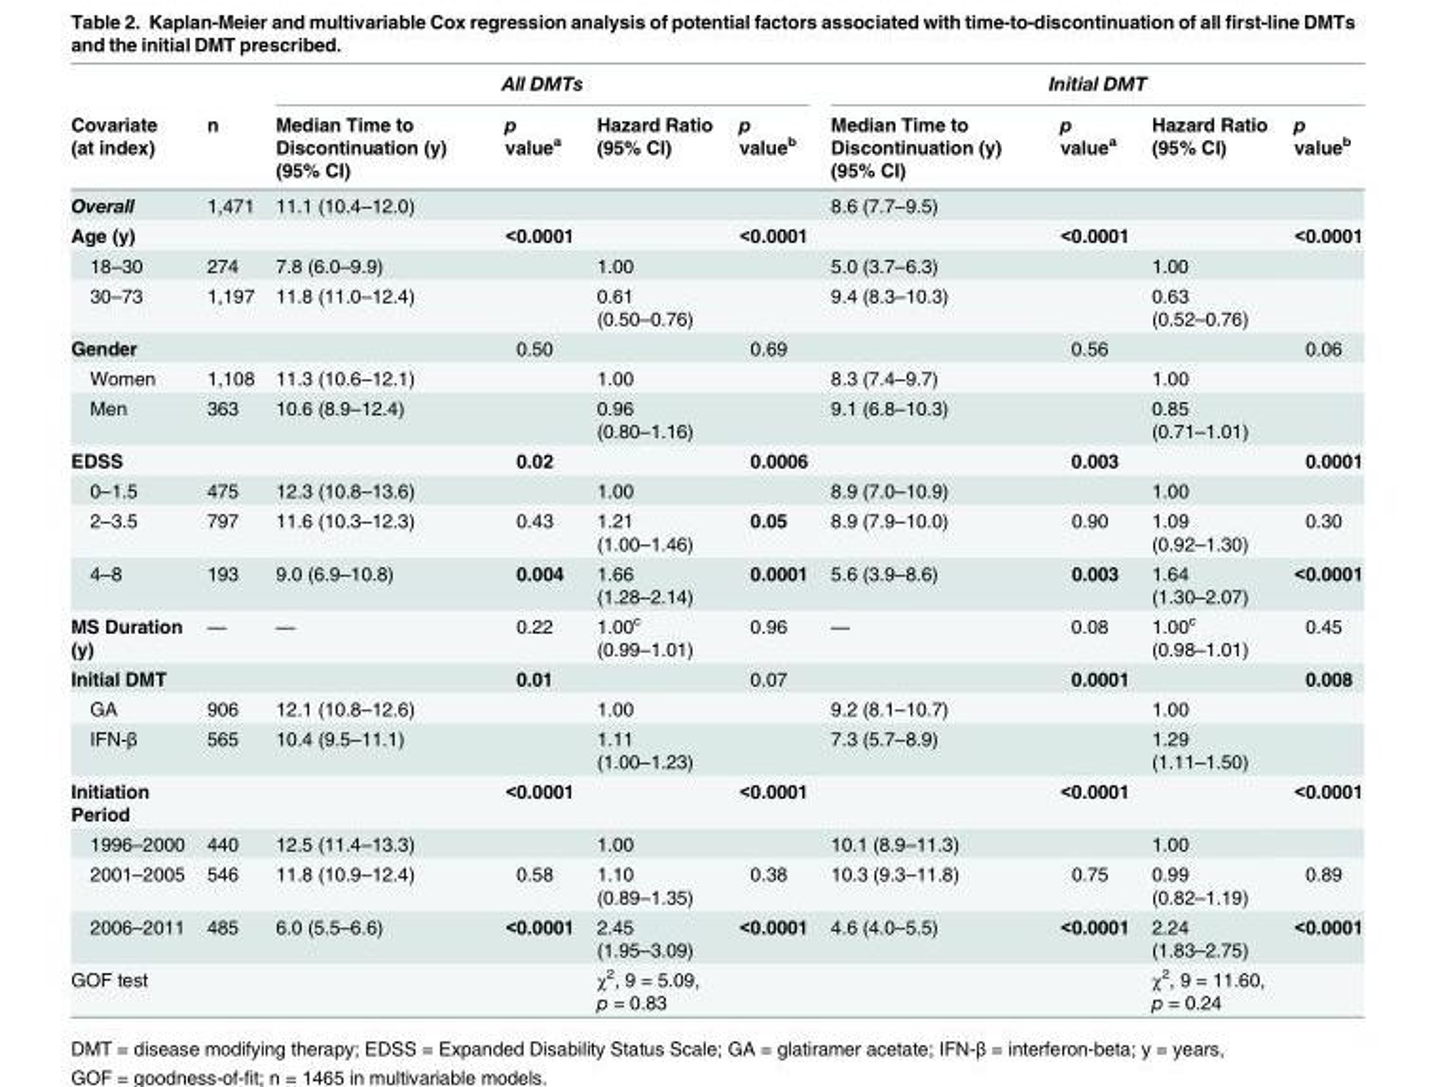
<table><thead><tr><td rowspan="2">Covariate (at index)</td><td rowspan="2">n</td><td colspan="4">All DMTs</td><td colspan="4">Initial DMT</td></tr><tr><td>Median Time to Discontinuation (y) (95% CI)</td><td>p value<sup>a</sup></td><td>Hazard Ratio (95% CI)</td><td>p value<sup>b</sup></td><td>Median Time to Discontinuation (y) (95% CI)</td><td>p value<sup>a</sup></td><td>Hazard Ratio (95% CI)</td><td>p value<sup>b</sup></td></tr></thead><tbody><tr><td>Overall</td><td>1,471</td><td>11.1 (10.4–12.0)</td><td></td><td></td><td></td><td>8.6 (7.7–9.5)</td><td></td><td></td><td></td></tr><tr><td>Age (y)</td><td></td><td></td><td>&lt;0.0001</td><td></td><td>&lt;0.0001</td><td></td><td>&lt;0.0001</td><td></td><td>&lt;0.0001</td></tr><tr><td>18–30</td><td>274</td><td>7.8 (6.0–9.9)</td><td></td><td>1.00</td><td></td><td>5.0 (3.7–6.3)</td><td></td><td>1.00</td><td></td></tr><tr><td>30–73</td><td>1,197</td><td>11.8 (11.0–12.4)</td><td></td><td>0.61 (0.50–0.76)</td><td></td><td>9.4 (8.3–10.3)</td><td></td><td>0.63 (0.52–0.76)</td><td></td></tr><tr><td>Gender</td><td></td><td></td><td>0.50</td><td></td><td>0.69</td><td></td><td>0.56</td><td></td><td>0.06</td></tr><tr><td>Women</td><td>1,108</td><td>11.3 (10.6–12.1)</td><td></td><td>1.00</td><td></td><td>8.3 (7.4–9.7)</td><td></td><td>1.00</td><td></td></tr><tr><td>Men</td><td>363</td><td>10.6 (8.9–12.4)</td><td></td><td>0.96 (0.80–1.16)</td><td></td><td>9.1 (6.8–10.3)</td><td></td><td>0.85 (0.71–1.01)</td><td></td></tr><tr><td>EDSS</td><td></td><td></td><td>0.02</td><td></td><td>0.0006</td><td></td><td>0.003</td><td></td><td>0.0001</td></tr><tr><td>0–1.5</td><td>475</td><td>12.3 (10.8–13.6)</td><td></td><td>1.00</td><td></td><td>8.9 (7.0–10.9)</td><td></td><td>1.00</td><td></td></tr><tr><td>2–3.5</td><td>797</td><td>11.6 (10.3–12.3)</td><td>0.43</td><td>1.21 (1.00–1.46)</td><td>0.05</td><td>8.9 (7.9–10.0)</td><td>0.90</td><td>1.09 (0.92–1.30)</td><td>0.30</td></tr><tr><td>4–8</td><td>193</td><td>9.0 (6.9–10.8)</td><td>0.004</td><td>1.66 (1.28–2.14)</td><td>0.0001</td><td>5.6 (3.9–8.6)</td><td>0.003</td><td>1.64 (1.30–2.07)</td><td>&lt;0.0001</td></tr><tr><td>MS Duration (y)</td><td>—</td><td>—</td><td>0.22</td><td>1.00<sup>c</sup> (0.99–1.01)</td><td>0.96</td><td>—</td><td>0.08</td><td>1.00<sup>c</sup> (0.98–1.01)</td><td>0.45</td></tr><tr><td>Initial DMT</td><td></td><td></td><td>0.01</td><td></td><td>0.07</td><td></td><td>0.0001</td><td></td><td>0.008</td></tr><tr><td>GA</td><td>906</td><td>12.1 (10.8–12.6)</td><td></td><td>1.00</td><td></td><td>9.2 (8.1–10.7)</td><td></td><td>1.00</td><td></td></tr><tr><td>IFN-β</td><td>565</td><td>10.4 (9.5–11.1)</td><td></td><td>1.11 (1.00–1.23)</td><td></td><td>7.3 (5.7–8.9)</td><td></td><td>1.29 (1.11–1.50)</td><td></td></tr><tr><td>Initiation Period</td><td></td><td></td><td>&lt;0.0001</td><td></td><td>&lt;0.0001</td><td></td><td>&lt;0.0001</td><td></td><td>&lt;0.0001</td></tr><tr><td>1996–2000</td><td>440</td><td>12.5 (11.4–13.3)</td><td></td><td>1.00</td><td></td><td>10.1 (8.9–11.3)</td><td></td><td>1.00</td><td></td></tr><tr><td>2001–2005</td><td>546</td><td>11.8 (10.9–12.4)</td><td>0.58</td><td>1.10 (0.89–1.35)</td><td>0.38</td><td>10.3 (9.3–11.8)</td><td>0.75</td><td>0.99 (0.82–1.19)</td><td>0.89</td></tr><tr><td>2006–2011</td><td>485</td><td>6.0 (5.5–6.6)</td><td>&lt;0.0001</td><td>2.45 (1.95–3.09)</td><td>&lt;0.0001</td><td>4.6 (4.0–5.5)</td><td>&lt;0.0001</td><td>2.24 (1.83–2.75)</td><td>&lt;0.0001</td></tr><tr><td>GOF test</td><td></td><td></td><td></td><td>χ<sup>2</sup>, 9 = 5.09, p = 0.83</td><td></td><td></td><td></td><td>χ<sup>2</sup>, 9 = 11.60, p = 0.24</td><td></td></tr></tbody></table>